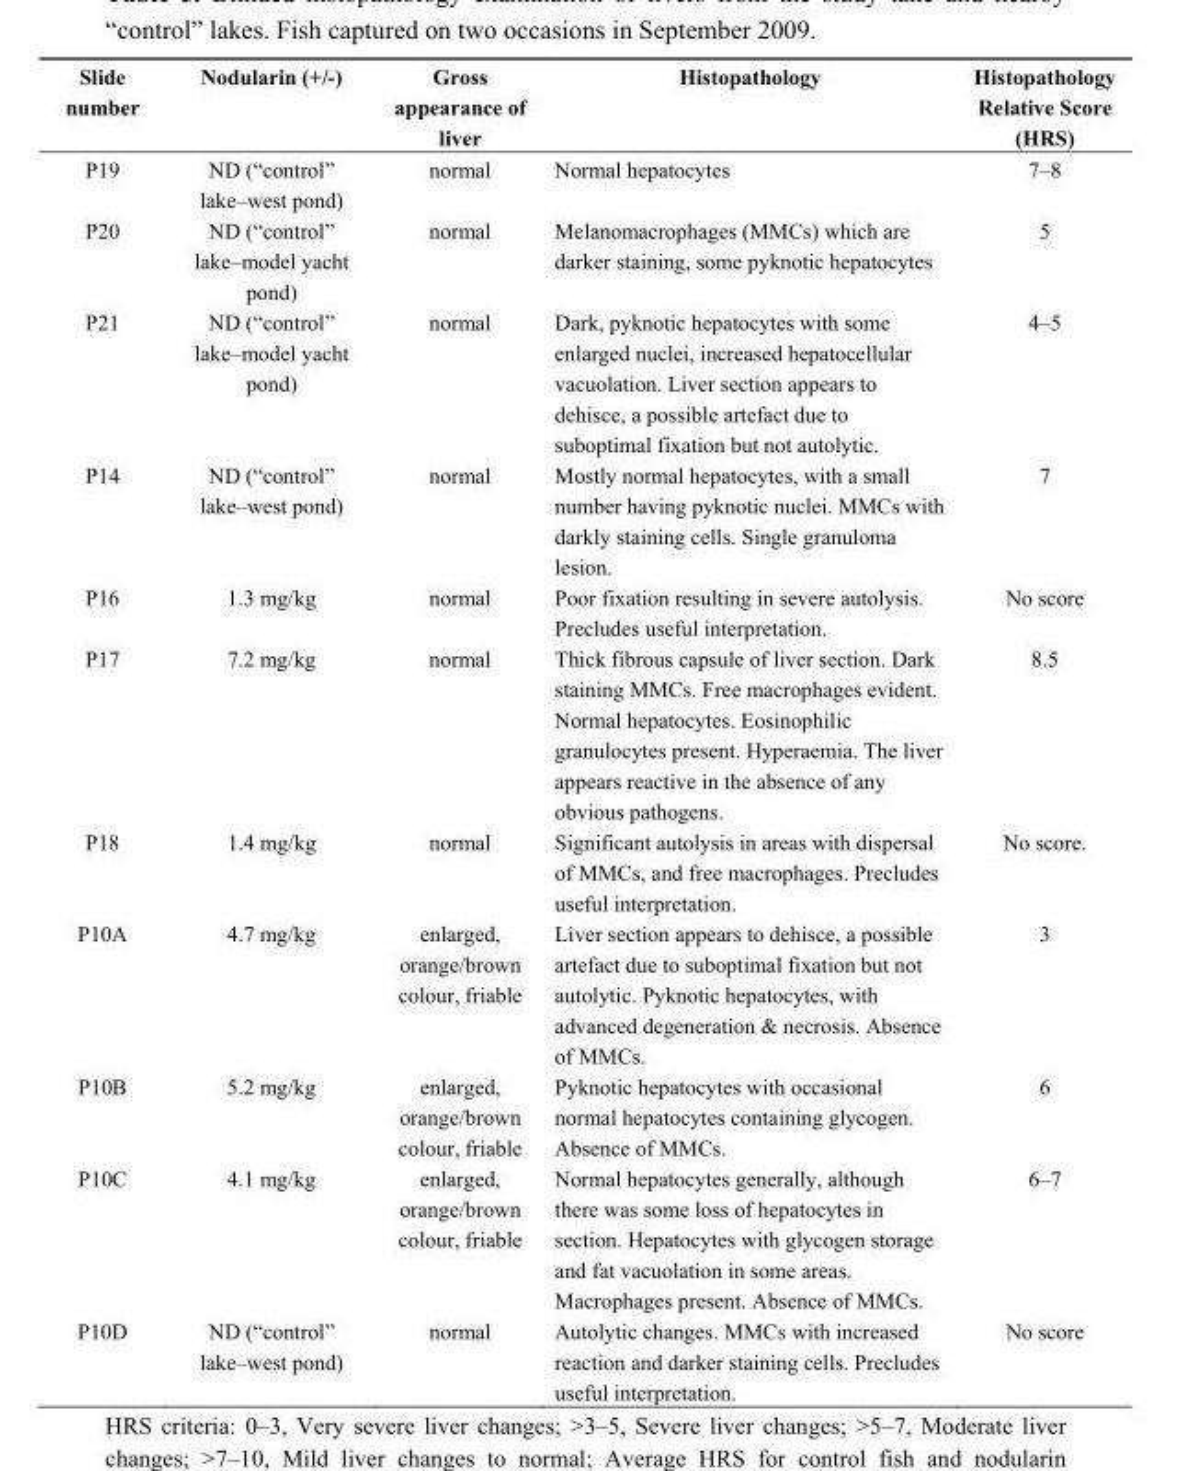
<table><thead><tr><td>Slide number</td><td>Nodularin (+/-)</td><td>Gross appearance of liver</td><td>Histopathology</td><td>Histopathology Relative Score (HRS)</td></tr></thead><tbody><tr><td>P19</td><td>ND (“control” lake–west pond)</td><td>normal</td><td>Normal hepatocytes</td><td>7–8</td></tr><tr><td>P20</td><td>ND (“control” lake–model yacht pond)</td><td>normal</td><td>Melanomacrophages (MMCs) which are darker staining, some pyknotic hepatocytes</td><td>5</td></tr><tr><td>P21</td><td>ND (“control” lake–model yacht pond)</td><td>normal</td><td>Dark, pyknotic hepatocytes with some enlarged nuclei, increased hepatocellular vacuolation. Liver section appears to dehisce, a possible artefact due to suboptimal fixation but not autolytic.</td><td>4–5</td></tr><tr><td>P14</td><td>ND (“control” lake–west pond)</td><td>normal</td><td>Mostly normal hepatocytes, with a small number having pyknotic nuclei. MMCs with darkly staining cells. Single granuloma lesion.</td><td>7</td></tr><tr><td>P16</td><td>1.3 mg/kg</td><td>normal</td><td>Poor fixation resulting in severe autolysis. Precludes useful interpretation.</td><td>No score</td></tr><tr><td>P17</td><td>7.2 mg/kg</td><td>normal</td><td>Thick fibrous capsule of liver section. Dark staining MMCs. Free macrophages evident. Normal hepatocytes. Eosinophilic granulocytes present. Hyperaemia. The liver appears reactive in the absence of any obvious pathogens.</td><td>8.5</td></tr><tr><td>P18</td><td>1.4 mg/kg</td><td>normal</td><td>Significant autolysis in areas with dispersal of MMCs, and free macrophages. Precludes useful interpretation.</td><td>No score.</td></tr><tr><td>P10A</td><td>4.7 mg/kg</td><td>enlarged, orange/brown colour, friable</td><td>Liver section appears to dehisce, a possible artefact due to suboptimal fixation but not autolytic. Pyknotic hepatocytes, with advanced degeneration &amp; necrosis. Absence of MMCs.</td><td>3</td></tr><tr><td>P10B</td><td>5.2 mg/kg</td><td>enlarged, orange/brown colour, friable</td><td>Pyknotic hepatocytes with occasional normal hepatocytes containing glycogen. Absence of MMCs.</td><td>6</td></tr><tr><td>P10C</td><td>4.1 mg/kg</td><td>enlarged, orange/brown colour, friable</td><td>Normal hepatocytes generally, although there was some loss of hepatocytes in section. Hepatocytes with glycogen storage and fat vacuolation in some areas. Macrophages present. Absence of MMCs.</td><td>6–7</td></tr><tr><td>P10D</td><td>ND (“control” lake–west pond)</td><td>normal</td><td>Autolytic changes. MMCs with increased reaction and darker staining cells. Precludes useful interpretation.</td><td>No score</td></tr></tbody></table>